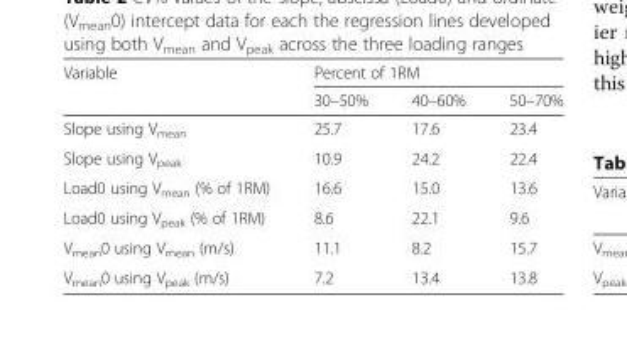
<table><thead><tr><td rowspan="2">Variable</td><td colspan="3">Percent of 1RM</td></tr><tr><td>30–50%</td><td>40–60%</td><td>50–70%</td></tr></thead><tbody><tr><td>Slope using V<sub>mean</sub></td><td>25.7</td><td>17.6</td><td>23.4</td></tr><tr><td>Slope using V<sub>peak</sub></td><td>10.9</td><td>24.2</td><td>22.4</td></tr><tr><td>Load0 using V<sub>mean</sub> (% of 1RM)</td><td>16.6</td><td>15.0</td><td>13.6</td></tr><tr><td>Load0 using V<sub>peak</sub> (% of 1RM)</td><td>8.6</td><td>22.1</td><td>9.6</td></tr><tr><td>V<sub>mean</sub>0 using V<sub>mean</sub> (m/s)</td><td>11.1</td><td>8.2</td><td>15.7</td></tr><tr><td>V<sub>mean</sub>0 using V<sub>peak</sub> (m/s)</td><td>7.2</td><td>13.4</td><td>13.8</td></tr></tbody></table>